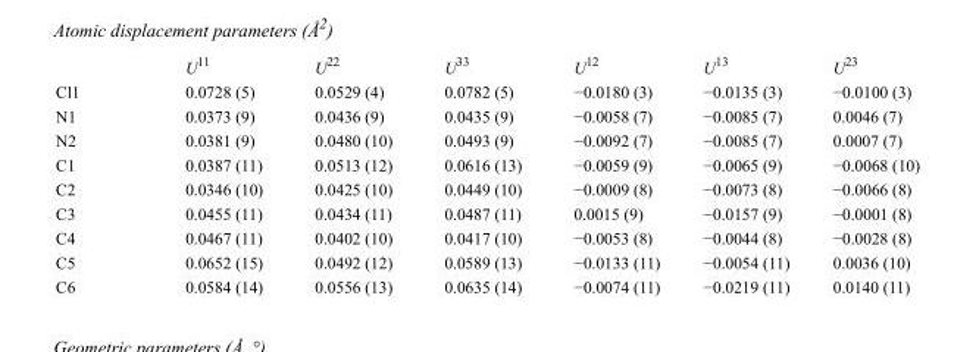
<table><thead><tr><td></td><td>U<sup>11</sup></td><td>U<sup>22</sup></td><td>U<sup>33</sup></td><td>U<sup>12</sup></td><td>U<sup>13</sup></td><td>U<sup>23</sup></td></tr></thead><tbody><tr><td>Cl1</td><td>0.0728 (5)</td><td>0.0529 (4)</td><td>0.0782 (5)</td><td>−0.0180 (3)</td><td>−0.0135 (3)</td><td>−0.0100 (3)</td></tr><tr><td>N1</td><td>0.0373 (9)</td><td>0.0436 (9)</td><td>0.0435 (9)</td><td>−0.0058 (7)</td><td>−0.0085 (7)</td><td>0.0046 (7)</td></tr><tr><td>N2</td><td>0.0381 (9)</td><td>0.0480 (10)</td><td>0.0493 (9)</td><td>−0.0092 (7)</td><td>−0.0085 (7)</td><td>0.0007 (7)</td></tr><tr><td>C1</td><td>0.0387 (11)</td><td>0.0513 (12)</td><td>0.0616 (13)</td><td>−0.0059 (9)</td><td>−0.0065 (9)</td><td>−0.0068 (10)</td></tr><tr><td>C2</td><td>0.0346 (10)</td><td>0.0425 (10)</td><td>0.0449 (10)</td><td>−0.0009 (8)</td><td>−0.0073 (8)</td><td>−0.0066 (8)</td></tr><tr><td>C3</td><td>0.0455 (11)</td><td>0.0434 (11)</td><td>0.0487 (11)</td><td>0.0015 (9)</td><td>−0.0157 (9)</td><td>−0.0001 (8)</td></tr><tr><td>C4</td><td>0.0467 (11)</td><td>0.0402 (10)</td><td>0.0417 (10)</td><td>−0.0053 (8)</td><td>−0.0044 (8)</td><td>−0.0028 (8)</td></tr><tr><td>C5</td><td>0.0652 (15)</td><td>0.0492 (12)</td><td>0.0589 (13)</td><td>−0.0133 (11)</td><td>−0.0054 (11)</td><td>0.0036 (10)</td></tr><tr><td>C6</td><td>0.0584 (14)</td><td>0.0556 (13)</td><td>0.0635 (14)</td><td>−0.0074 (11)</td><td>−0.0219 (11)</td><td>0.0140 (11)</td></tr></tbody></table>